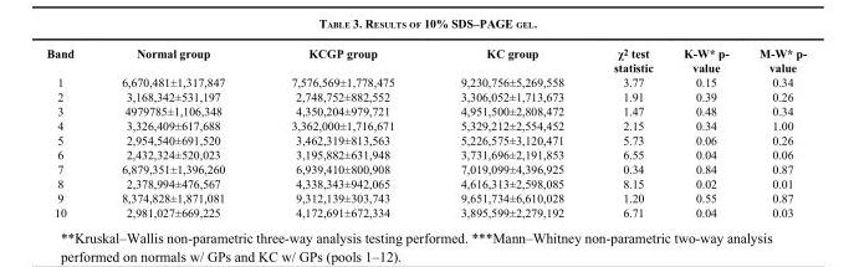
<table><thead><tr><td>Band</td><td>Normal group</td><td>KCGP group</td><td>KC group</td><td>χ<sup>2</sup> test statistic</td><td>K-W* p- value</td><td>M-W* p- value</td></tr></thead><tbody><tr><td>1</td><td>6,670,481±1,317,847</td><td>7,576,569±1,778,475</td><td>9,230,756±5,269,558</td><td>3.77</td><td>0.15</td><td>0.34</td></tr><tr><td>2</td><td>3,168,342±531,197</td><td>2,748,752±882,552</td><td>3,306,052±1,713,673</td><td>1.91</td><td>0.39</td><td>0.26</td></tr><tr><td>3</td><td>4979785±1,106,348</td><td>4,350,204±979,721</td><td>4,951,500±2,808,472</td><td>1.47</td><td>0.48</td><td>0.34</td></tr><tr><td>4</td><td>3,326,409±617,688</td><td>3,362,000±1,716,671</td><td>5,329,212±2,554,452</td><td>2.15</td><td>0.34</td><td>1.00</td></tr><tr><td>5</td><td>2,954,540±691,520</td><td>3,462,319±813,563</td><td>5,226,575±3,120,471</td><td>5.73</td><td>0.06</td><td>0.26</td></tr><tr><td>6</td><td>2,432,324±520,023</td><td>3,195,882±631,948</td><td>3,731,696±2,191,853</td><td>6.55</td><td>0.04</td><td>0.06</td></tr><tr><td>7</td><td>6,879,351±1,396,260</td><td>6,939,410±800,908</td><td>7,019,099±4,396,925</td><td>0.34</td><td>0.84</td><td>0.87</td></tr><tr><td>8</td><td>2,378,994±476,567</td><td>4,338,343±942,065</td><td>4,616,313±2,598,085</td><td>8.15</td><td>0.02</td><td>0.01</td></tr><tr><td>9</td><td>8,374,828±1,871,081</td><td>9,312,139±303,743</td><td>9,651,734±6,610,028</td><td>1.20</td><td>0.55</td><td>0.87</td></tr><tr><td>10</td><td>2,981,027±669,225</td><td>4,172,691±672,334</td><td>3,895,599±2,279,192</td><td>6.71</td><td>0.04</td><td>0.03</td></tr></tbody></table>